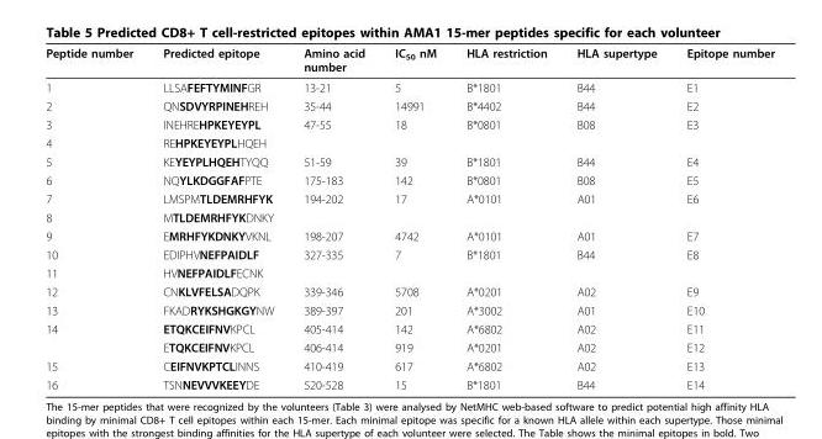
<table><thead><tr><td>Peptide number</td><td>Predicted epitope</td><td>Amino acid number</td><td>IC<sub>50</sub> nM</td><td>HLA restriction</td><td>HLA supertype</td><td>Epitope number</td></tr></thead><tbody><tr><td>1</td><td>LLSAFEFTYMINFGR</td><td>13-21</td><td>5</td><td>B*1801</td><td>B44</td><td>E1</td></tr><tr><td>2</td><td>QNSDVYRPINEHREH</td><td>35-44</td><td>14991</td><td>B*4402</td><td>B44</td><td>E2</td></tr><tr><td>3</td><td>INEHREHPKEYEYPL</td><td>47-55</td><td>18</td><td>B*0801</td><td>B08</td><td>E3</td></tr><tr><td>4</td><td>REHPKEYEYPLHQEH</td><td></td><td></td><td></td><td></td><td></td></tr><tr><td>5</td><td>KEYEYPLHQEHTYQQ</td><td>51-59</td><td>39</td><td>B*1801</td><td>B44</td><td>E4</td></tr><tr><td>6</td><td>NQYLKDGGFAFPTE</td><td>175-183</td><td>142</td><td>B*0801</td><td>B08</td><td>E5</td></tr><tr><td>7</td><td>LMSPMTLDEMRHFYK</td><td>194-202</td><td>17</td><td>A*0101</td><td>A01</td><td>E6</td></tr><tr><td>8</td><td>MTLDEMRHFYKDNKY</td><td></td><td></td><td></td><td></td><td></td></tr><tr><td>9</td><td>EMRHFYKDNKYVKNL</td><td>198-207</td><td>4742</td><td>A*0101</td><td>A01</td><td>E7</td></tr><tr><td>10</td><td>EDIPHVNEFPAIDLF</td><td>327-335</td><td>7</td><td>B*1801</td><td>B44</td><td>E8</td></tr><tr><td>11</td><td>HVNEFPAIDLFECNK</td><td></td><td></td><td></td><td></td><td></td></tr><tr><td>12</td><td>CNKLVFELSADQPK</td><td>339-346</td><td>5708</td><td>A*0201</td><td>A02</td><td>E9</td></tr><tr><td>13</td><td>FKADRYKSHGKGYNW</td><td>389-397</td><td>201</td><td>A*3002</td><td>A01</td><td>E10</td></tr><tr><td rowspan="2">14</td><td>ETQKCEIFNVKPCL</td><td>405-414</td><td>142</td><td>A*6802</td><td>A02</td><td>E11</td></tr><tr><td>ETQKCEIFNVKPCL</td><td>406-414</td><td>919</td><td>A*0201</td><td>A02</td><td>E12</td></tr><tr><td>15</td><td>CEIFNVKPTCLINNS</td><td>410-419</td><td>617</td><td>A*6802</td><td>A02</td><td>E13</td></tr><tr><td>16</td><td>TSNNEVVVKEEYDE</td><td>520-528</td><td>15</td><td>B*1801</td><td>B44</td><td>E14</td></tr></tbody></table>